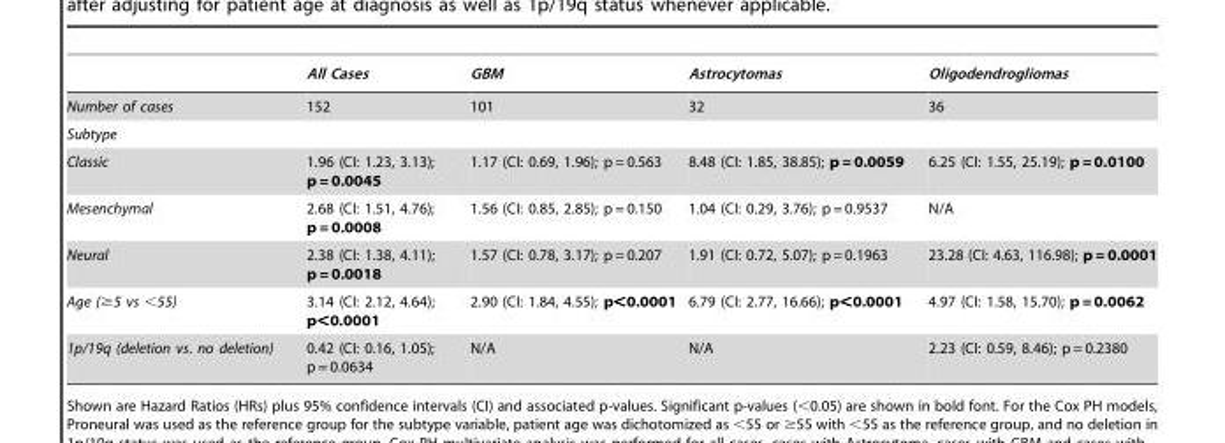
<table><thead><tr><td></td><td>All Cases</td><td>GBM</td><td>Astrocytomas</td><td>Oligodendrogliomas</td></tr></thead><tbody><tr><td>Number of cases</td><td>152</td><td>101</td><td>32</td><td>36</td></tr><tr><td colspan="5">Subtype</td></tr><tr><td>Classic</td><td>1.96 (CI: 1.23, 3.13); p = 0.0045</td><td>1.17 (CI: 0.69, 1.96); p = 0.563</td><td>8.48 (CI: 1.85, 38.85); p = 0.0059</td><td>6.25 (CI: 1.55, 25.19); p = 0.0100</td></tr><tr><td>Mesenchymal</td><td>2.68 (CI: 1.51, 4.76); p = 0.0008</td><td>1.56 (CI: 0.85, 2.85); p = 0.150</td><td>1.04 (CI: 0.29, 3.76); p = 0.9537</td><td>N/A</td></tr><tr><td>Neural</td><td>2.38 (CI: 1.38, 4.11); p = 0.0018</td><td>1.57 (CI: 0.78, 3.17); p = 0.207</td><td>1.91 (CI: 0.72, 5.07); p = 0.1963</td><td>23.28 (CI: 4.63, 116.98); p = 0.0001</td></tr><tr><td>Age (≥5 vs &lt;55)</td><td>3.14 (CI: 2.12, 4.64); p&lt;0.0001</td><td>2.90 (CI: 1.84, 4.55); p&lt;0.0001</td><td>6.79 (CI: 2.77, 16.66); p&lt;0.0001</td><td>4.97 (CI: 1.58, 15.70); p = 0.0062</td></tr><tr><td>1p/19q (deletion vs. no deletion)</td><td>0.42 (CI: 0.16, 1.05); p = 0.0634</td><td>N/A</td><td>N/A</td><td>2.23 (CI: 0.59, 8.46); p = 0.2380</td></tr></tbody></table>